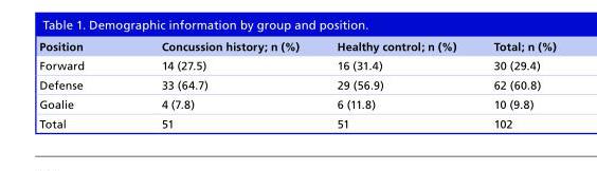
<table><thead><tr><td>Position</td><td>Concussion history; n (%)</td><td>Healthy control; n (%)</td><td>Total; n (%)</td></tr></thead><tbody><tr><td>Forward</td><td>14 (27.5)</td><td>16 (31.4)</td><td>30 (29.4)</td></tr><tr><td>Defense</td><td>33 (64.7)</td><td>29 (56.9)</td><td>62 (60.8)</td></tr><tr><td>Goalie</td><td>4 (7.8)</td><td>6 (11.8)</td><td>10 (9.8)</td></tr><tr><td>Total</td><td>51</td><td>51</td><td>102</td></tr></tbody></table>